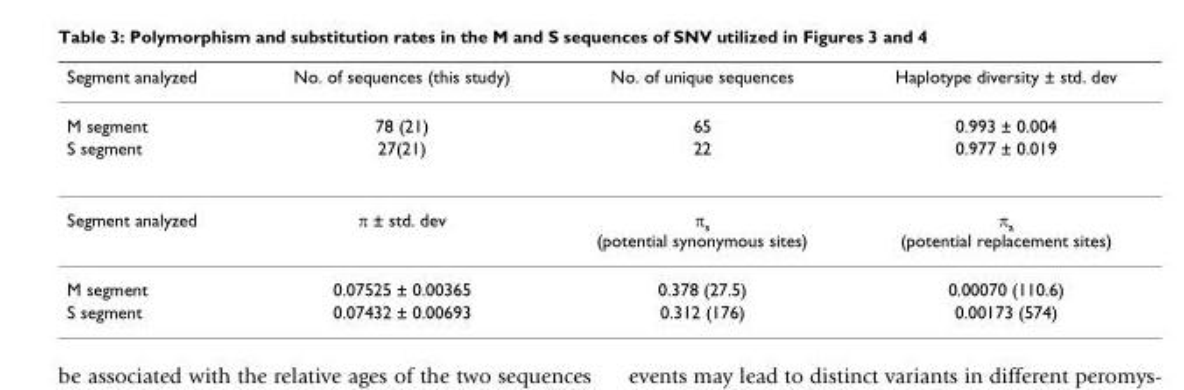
<table><thead><tr><td>Segment analyzed</td><td>No. of sequences (this study)</td><td>No. of unique sequences</td><td>Haplotype diversity ± std. dev</td></tr></thead><tbody><tr><td>M segment</td><td>78 (21)</td><td>65</td><td>0.993 ± 0.004</td></tr><tr><td>S segment</td><td>27(21)</td><td>22</td><td>0.977 ± 0.019</td></tr><tr><td>Segment analyzed</td><td>π ± std. dev</td><td>π<sub>s</sub> (potential synonymous sites)</td><td>π<sub>a</sub> (potential replacement sites)</td></tr><tr><td>M segment</td><td>0.07525 ± 0.00365</td><td>0.378 (27.5)</td><td>0.00070 (110.6)</td></tr><tr><td>S segment</td><td>0.07432 ± 0.00693</td><td>0.312 (176)</td><td>0.00173 (574)</td></tr></tbody></table>